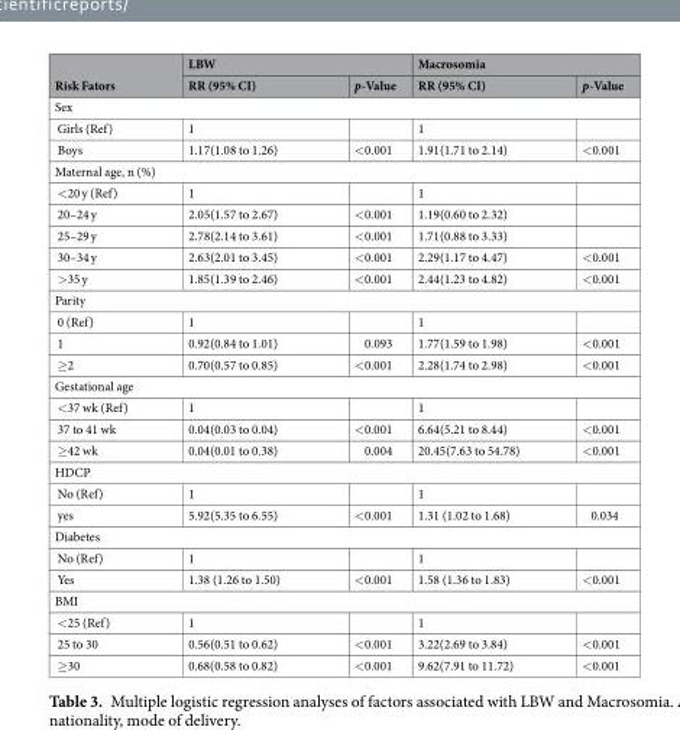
<table><thead><tr><td rowspan="2">Risk Fators</td><td colspan="2">LBW</td><td colspan="2">Macrosomia</td></tr><tr><td>RR (95% CI)</td><td>p-Value</td><td>RR (95% CI)</td><td>p-Value</td></tr></thead><tbody><tr><td colspan="5">Sex</td></tr><tr><td>Girls (Ref)</td><td>1</td><td></td><td>1</td><td></td></tr><tr><td>Boys</td><td>1.17(1.08 to 1.26)</td><td>&lt;0.001</td><td>1.91(1.71 to 2.14)</td><td>&lt;0.001</td></tr><tr><td colspan="5">Maternal age, n (%)</td></tr><tr><td>&lt;20 y (Ref)</td><td>1</td><td></td><td>1</td><td></td></tr><tr><td>20–24 y</td><td>2.05(1.57 to 2.67)</td><td>&lt;0.001</td><td>1.19(0.60 to 2.32)</td><td></td></tr><tr><td>25–29 y</td><td>2.78(2.14 to 3.61)</td><td>&lt;0.001</td><td>1.71(0.88 to 3.33)</td><td></td></tr><tr><td>30–34 y</td><td>2.63(2.01 to 3.45)</td><td>&lt;0.001</td><td>2.29(1.17 to 4.47)</td><td>&lt;0.001</td></tr><tr><td>&gt;35 y</td><td>1.85(1.39 to 2.46)</td><td>&lt;0.001</td><td>2.44(1.23 to 4.82)</td><td>&lt;0.001</td></tr><tr><td colspan="5">Parity</td></tr><tr><td>0 (Ref)</td><td>1</td><td></td><td>1</td><td></td></tr><tr><td>1</td><td>0.92(0.84 to 1.01)</td><td>0.093</td><td>1.77(1.59 to 1.98)</td><td>&lt;0.001</td></tr><tr><td>≥2</td><td>0.70(0.57 to 0.85)</td><td>&lt;0.001</td><td>2.28(1.74 to 2.98)</td><td>&lt;0.001</td></tr><tr><td colspan="5">Gestational age</td></tr><tr><td>&lt;37 wk (Ref)</td><td>1</td><td></td><td>1</td><td></td></tr><tr><td>37 to 41 wk</td><td>0.04(0.03 to 0.04)</td><td>&lt;0.001</td><td>6.64(5.21 to 8.44)</td><td>&lt;0.001</td></tr><tr><td>≥42 wk</td><td>0.04(0.01 to 0.38)</td><td>0.004</td><td>20.45(7.63 to 54.78)</td><td>&lt;0.001</td></tr><tr><td colspan="5">HDCP</td></tr><tr><td>No (Ref)</td><td>1</td><td></td><td>1</td><td></td></tr><tr><td>yes</td><td>5.92(5.35 to 6.55)</td><td>&lt;0.001</td><td>1.31 (1.02 to 1.68)</td><td>0.034</td></tr><tr><td colspan="5">Diabetes</td></tr><tr><td>No (Ref)</td><td>1</td><td></td><td>1</td><td></td></tr><tr><td>Yes</td><td>1.38 (1.26 to 1.50)</td><td>&lt;0.001</td><td>1.58 (1.36 to 1.83)</td><td>&lt;0.001</td></tr><tr><td colspan="5">BMI</td></tr><tr><td>&lt;25 (Ref)</td><td>1</td><td></td><td>1</td><td></td></tr><tr><td>25 to 30</td><td>0.56(0.51 to 0.62)</td><td>&lt;0.001</td><td>3.22(2.69 to 3.84)</td><td>&lt;0.001</td></tr><tr><td>≥30</td><td>0.68(0.58 to 0.82)</td><td>&lt;0.001</td><td>9.62(7.91 to 11.72)</td><td>&lt;0.001</td></tr></tbody></table>